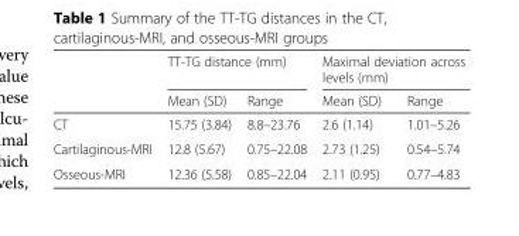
<table><thead><tr><td rowspan="2"></td><td colspan="2">TT-TG distance (mm)</td><td colspan="2">Maximal deviation across levels (mm)</td></tr><tr><td>Mean (SD)</td><td>Range</td><td>Mean (SD)</td><td>Range</td></tr></thead><tbody><tr><td>CT</td><td>15.75 (3.84)</td><td>8.8–23.76</td><td>2.6 (1.14)</td><td>1.01–5.26</td></tr><tr><td>Cartilaginous-MRI</td><td>12.8 (5.67)</td><td>0.75–22.08</td><td>2.73 (1.25)</td><td>0.54–5.74</td></tr><tr><td>Osseous-MRI</td><td>12.36 (5.58)</td><td>0.85–22.04</td><td>2.11 (0.95)</td><td>0.77–4.83</td></tr></tbody></table>